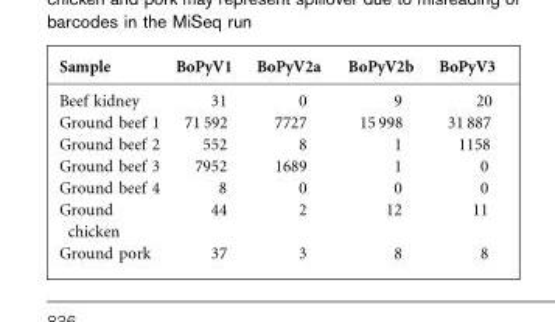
<table><thead><tr><td>Sample</td><td>BoPyV1</td><td>BoPyV2a</td><td>BoPyV2b</td><td>BoPyV3</td></tr></thead><tbody><tr><td>Beef kidney</td><td>31</td><td>0</td><td>9</td><td>20</td></tr><tr><td>Ground beef 1</td><td>71 592</td><td>7727</td><td>15 998</td><td>31 887</td></tr><tr><td>Ground beef 2</td><td>552</td><td>8</td><td>1</td><td>1158</td></tr><tr><td>Ground beef 3</td><td>7952</td><td>1689</td><td>1</td><td>0</td></tr><tr><td>Ground beef 4</td><td>8</td><td>0</td><td>0</td><td>0</td></tr><tr><td>Ground chicken</td><td>44</td><td>2</td><td>12</td><td>11</td></tr><tr><td>Ground pork</td><td>37</td><td>3</td><td>8</td><td>8</td></tr></tbody></table>